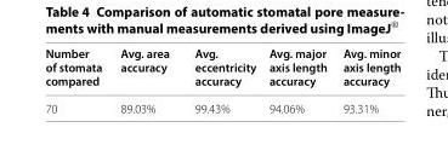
<table><thead><tr><td>Number of stomata compared</td><td>Avg. area accuracy</td><td>Avg. eccentricity accuracy</td><td>Avg. major axis length accuracy</td><td>Avg. minor axis length accuracy</td></tr></thead><tbody><tr><td>70</td><td>89.03%</td><td>99.43%</td><td>94.06%</td><td>93.31%</td></tr></tbody></table>